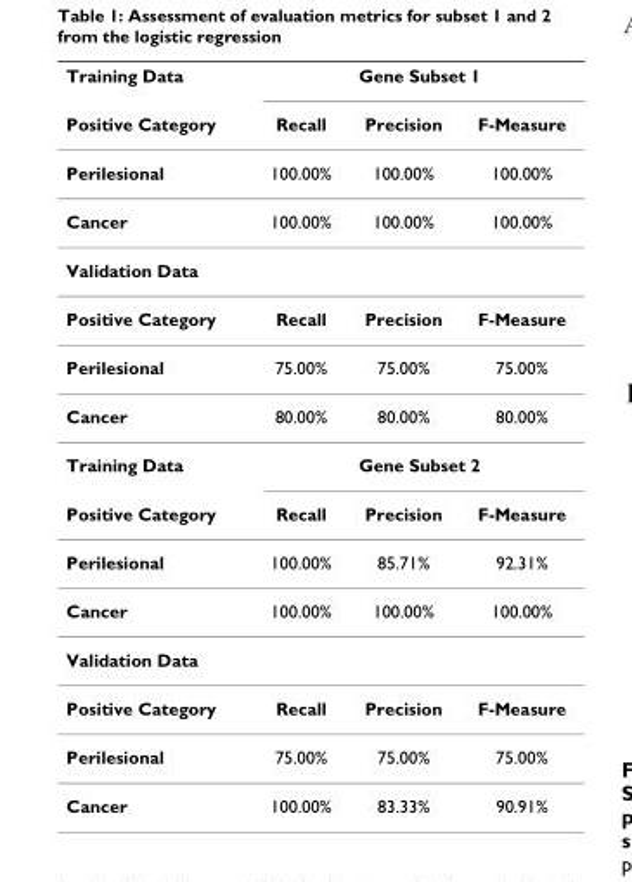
<table><thead><tr><td rowspan="2">Training Data Positive Category</td><td colspan="3">Gene Subset 1</td></tr><tr><td>Recall</td><td>Precision</td><td>F-Measure</td></tr></thead><tbody><tr><td>Perilesional</td><td>100.00%</td><td>100.00%</td><td>100.00%</td></tr><tr><td>Cancer</td><td>100.00%</td><td>100.00%</td><td>100.00%</td></tr><tr><td colspan="4">Validation Data</td></tr><tr><td>Positive Category</td><td>Recall</td><td>Precision</td><td>F-Measure</td></tr><tr><td>Perilesional</td><td>75.00%</td><td>75.00%</td><td>75.00%</td></tr><tr><td>Cancer</td><td>80.00%</td><td>80.00%</td><td>80.00%</td></tr><tr><td>Training Data</td><td colspan="3">Gene Subset 2</td></tr><tr><td>Positive Category</td><td>Recall</td><td>Precision</td><td>F-Measure</td></tr><tr><td>Perilesional</td><td>100.00%</td><td>85.71%</td><td>92.31%</td></tr><tr><td>Cancer</td><td>100.00%</td><td>100.00%</td><td>100.00%</td></tr><tr><td colspan="4">Validation Data</td></tr><tr><td>Positive Category</td><td>Recall</td><td>Precision</td><td>F-Measure</td></tr><tr><td>Perilesional</td><td>75.00%</td><td>75.00%</td><td>75.00%</td></tr><tr><td>Cancer</td><td>100.00%</td><td>83.33%</td><td>90.91%</td></tr></tbody></table>